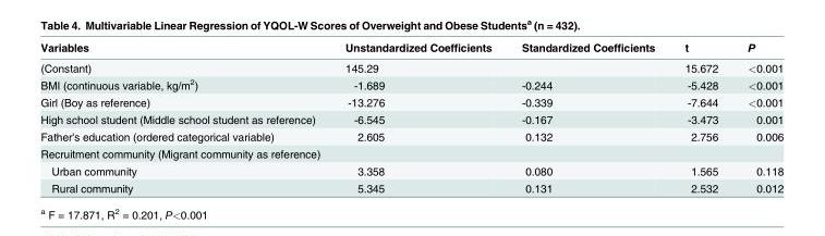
<table><thead><tr><td>Variables</td><td>Unstandardized Coefficients</td><td>Standardized Coefficients</td><td>t</td><td>P</td></tr></thead><tbody><tr><td>(Constant)</td><td>145.29</td><td></td><td>15.672</td><td>&lt;0.001</td></tr><tr><td>BMI (continuous variable, kg/m<sup>2</sup>)</td><td>-1.689</td><td>-0.244</td><td>-5.428</td><td>&lt;0.001</td></tr><tr><td>Girl (Boy as reference)</td><td>-13.276</td><td>-0.339</td><td>-7.644</td><td>&lt;0.001</td></tr><tr><td>High school student (Middle school student as reference)</td><td>-6.545</td><td>-0.167</td><td>-3.473</td><td>0.001</td></tr><tr><td>Father&#x27;s education (ordered categorical variable)</td><td>2.605</td><td>0.132</td><td>2.756</td><td>0.006</td></tr><tr><td colspan="5">Recruitment community (Migrant community as reference)</td></tr><tr><td>Urban community</td><td>3.358</td><td>0.080</td><td>1.565</td><td>0.118</td></tr><tr><td>Rural community</td><td>5.345</td><td>0.131</td><td>2.532</td><td>0.012</td></tr></tbody></table>